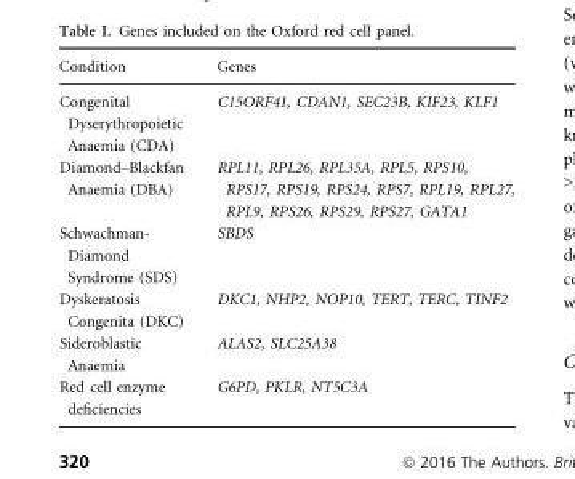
<table><thead><tr><td>Condition</td><td>Genes</td></tr></thead><tbody><tr><td>Congenital Dyserythropoietic Anaemia (CDA)</td><td>C15ORF41, CDAN1, SEC23B, KIF23, KLF1</td></tr><tr><td>Diamond–Blackfan Anaemia (DBA)</td><td>RPL11, RPL26, RPL35A, RPL5, RPS10, RPS17, RPS19, RPS24, RPS7, RPL19, RPL27, RPL9, RPS26, RPS29, RPS27, GATA1</td></tr><tr><td>Schwachman- Diamond Syndrome (SDS)</td><td>SBDS</td></tr><tr><td>Dyskeratosis Congenita (DKC)</td><td>DKC1, NHP2, NOP10, TERT, TERC, TINF2</td></tr><tr><td>Sideroblastic Anaemia</td><td>ALAS2, SLC25A38</td></tr><tr><td>Red cell enzyme deficiencies</td><td>G6PD, PKLR, NT5C3A</td></tr></tbody></table>